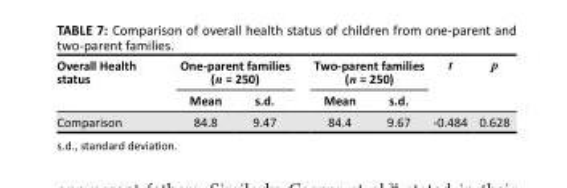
<table><thead><tr><td rowspan="2">Overall Health status</td><td colspan="2">One-parent families (n = 250)</td><td colspan="2">Two-parent families (n = 250)</td><td rowspan="2">t</td><td rowspan="2">p</td></tr><tr><td>Mean</td><td>s.d.</td><td>Mean</td><td>s.d.</td></tr></thead><tbody><tr><td>Comparison</td><td>84.8</td><td>9.47</td><td>84.4</td><td>9.67</td><td>-0.484</td><td>0.628</td></tr></tbody></table>